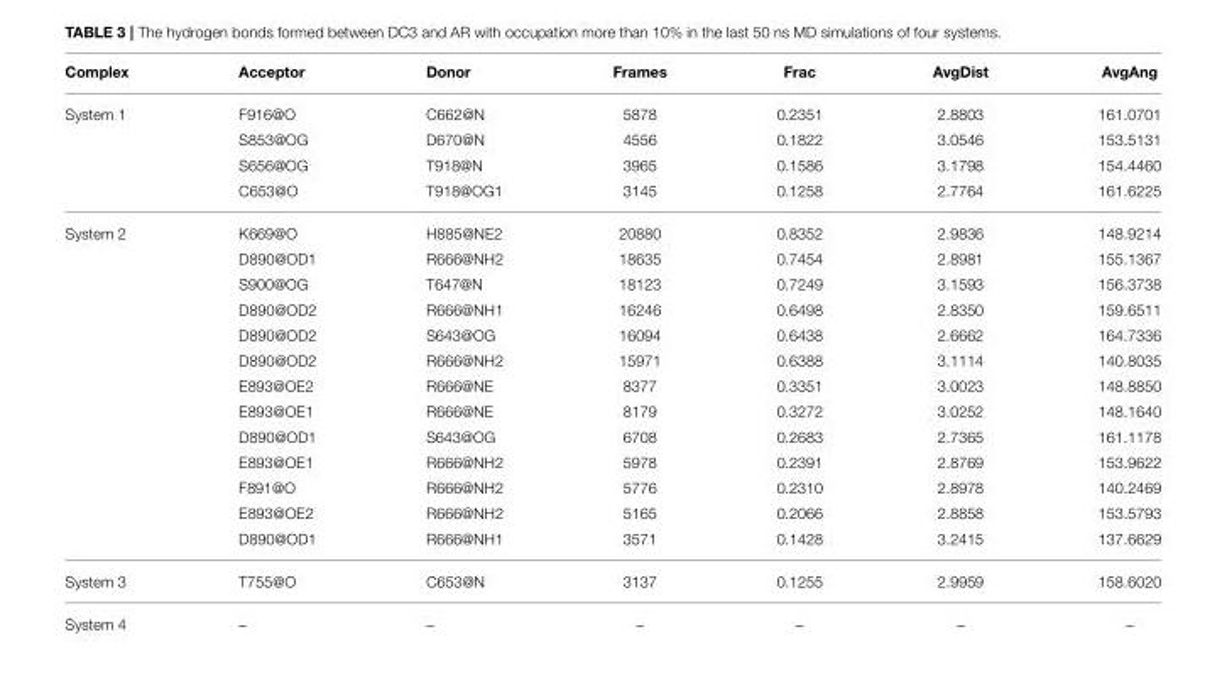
<table><thead><tr><td>Complex</td><td>Acceptor</td><td>Donor</td><td>Frames</td><td>Frac</td><td>AvgDist</td><td>AvgAng</td></tr></thead><tbody><tr><td rowspan="4">System 1</td><td>F916@O</td><td>C662@N</td><td>5878</td><td>0.2351</td><td>2.8803</td><td>161.0701</td></tr><tr><td>S853@OG</td><td>D670@N</td><td>4556</td><td>0.1822</td><td>3.0546</td><td>153.5131</td></tr><tr><td>S656@OG</td><td>T918@N</td><td>3965</td><td>0.1586</td><td>3.1798</td><td>154.4460</td></tr><tr><td>C653@O</td><td>T918@OG1</td><td>3145</td><td>0.1258</td><td>2.7764</td><td>161.6225</td></tr><tr><td rowspan="13">System 2</td><td>K669@O</td><td>H885@NE2</td><td>20880</td><td>0.8352</td><td>2.9836</td><td>148.9214</td></tr><tr><td>D890@OD1</td><td>R666@NH2</td><td>18635</td><td>0.7454</td><td>2.8981</td><td>155.1367</td></tr><tr><td>S900@OG</td><td>T647@N</td><td>18123</td><td>0.7249</td><td>3.1593</td><td>156.3738</td></tr><tr><td>D890@OD2</td><td>R666@NH1</td><td>16246</td><td>0.6498</td><td>2.8350</td><td>159.6511</td></tr><tr><td>D890@OD2</td><td>S643@OG</td><td>16094</td><td>0.6438</td><td>2.6662</td><td>164.7336</td></tr><tr><td>D890@OD2</td><td>R666@NH2</td><td>15971</td><td>0.6388</td><td>3.1114</td><td>140.8035</td></tr><tr><td>E893@OE2</td><td>R666@NE</td><td>8377</td><td>0.3351</td><td>3.0023</td><td>148.8850</td></tr><tr><td>E893@OE1</td><td>R666@NE</td><td>8179</td><td>0.3272</td><td>3.0252</td><td>148.1640</td></tr><tr><td>D890@OD1</td><td>S643@OG</td><td>6708</td><td>0.2683</td><td>2.7365</td><td>161.1178</td></tr><tr><td>E893@OE1</td><td>R666@NH2</td><td>5978</td><td>0.2391</td><td>2.8769</td><td>153.9622</td></tr><tr><td>F891@O</td><td>R666@NH2</td><td>5776</td><td>0.2310</td><td>2.8978</td><td>140.2469</td></tr><tr><td>E893@OE2</td><td>R666@NH2</td><td>5165</td><td>0.2066</td><td>2.8858</td><td>153.5793</td></tr><tr><td>D890@OD1</td><td>R666@NH1</td><td>3571</td><td>0.1428</td><td>3.2415</td><td>137.6629</td></tr><tr><td>System 3</td><td>T755@O</td><td>C653@N</td><td>3137</td><td>0.1255</td><td>2.9959</td><td>158.6020</td></tr><tr><td>System 4</td><td>–</td><td>–</td><td>–</td><td>–</td><td>–</td><td>–</td></tr></tbody></table>